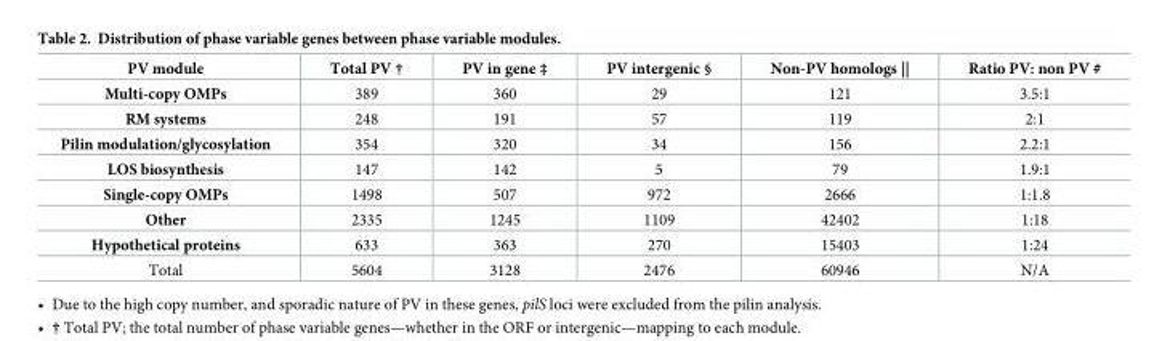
<table><thead><tr><td>PV module</td><td>Total PV †</td><td>PV in gene ‡</td><td>PV intergenic §</td><td>Non-PV homologs ||</td><td>Ratio PV: non PV #</td></tr></thead><tbody><tr><td>Multi-copy OMPs</td><td>389</td><td>360</td><td>29</td><td>121</td><td>3.5:1</td></tr><tr><td>RM systems</td><td>248</td><td>191</td><td>57</td><td>119</td><td>2:1</td></tr><tr><td>Pilin modulation/glycosylation</td><td>354</td><td>320</td><td>34</td><td>156</td><td>2.2:1</td></tr><tr><td>LOS biosynthesis</td><td>147</td><td>142</td><td>5</td><td>79</td><td>1.9:1</td></tr><tr><td>Single-copy OMPs</td><td>1498</td><td>507</td><td>972</td><td>2666</td><td>1:1.8</td></tr><tr><td>Other</td><td>2335</td><td>1245</td><td>1109</td><td>42402</td><td>1:18</td></tr><tr><td>Hypothetical proteins</td><td>633</td><td>363</td><td>270</td><td>15403</td><td>1:24</td></tr><tr><td>Total</td><td>5604</td><td>3128</td><td>2476</td><td>60946</td><td>N/A</td></tr></tbody></table>